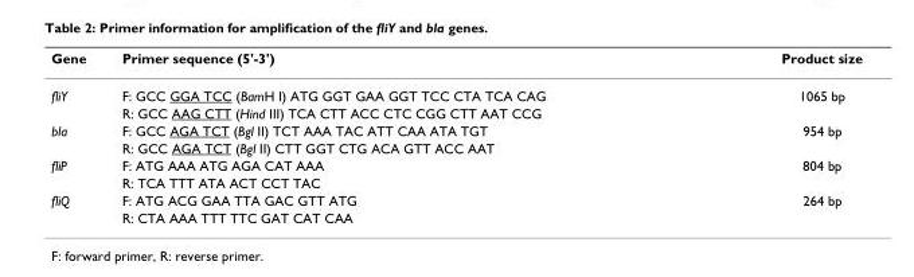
<table><thead><tr><td>Gene</td><td>Primer sequence (5&#x27;-3&#x27;)</td><td>Product size</td></tr></thead><tbody><tr><td rowspan="2">fliY</td><td>F: GCC GGA TCC (BamH I) ATG GGT GAA GGT TCC CTA TCA CAG</td><td>1065 bp</td></tr><tr><td>R: GCC AAG CTT (Hind III) TCA CTT ACC CTC CGG CTT AAT CCG</td><td></td></tr><tr><td rowspan="2">bla</td><td>F: GCC AGA TCT (Bgl II) TCT AAA TAC ATT CAA ATA TGT</td><td>954 bp</td></tr><tr><td>R: GCC AGA TCT (Bgl II) CTT GGT CTG ACA GTT ACC AAT</td><td></td></tr><tr><td rowspan="2">fliP</td><td>F: ATG AAA ATG AGA CAT AAA</td><td>804 bp</td></tr><tr><td>R: TCA TTT ATA ACT CCT TAC</td><td></td></tr><tr><td rowspan="2">fliQ</td><td>F: ATG ACG GAA TTA GAC GTT ATG</td><td>264 bp</td></tr><tr><td>R: CTA AAA TTT TTC GAT CAT CAA</td><td></td></tr></tbody></table>